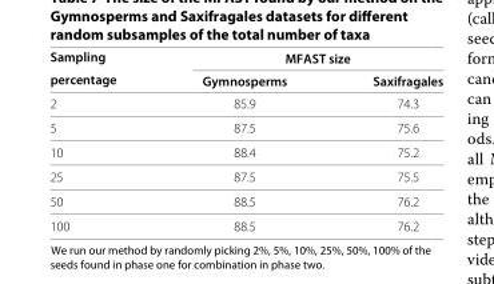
<table><thead><tr><td rowspan="2">Sampling percentage</td><td colspan="2">MFAST size</td></tr><tr><td>Gymnosperms</td><td>Saxifragales</td></tr></thead><tbody><tr><td>2</td><td>85.9</td><td>74.3</td></tr><tr><td>5</td><td>87.5</td><td>75.6</td></tr><tr><td>10</td><td>88.4</td><td>75.2</td></tr><tr><td>25</td><td>87.5</td><td>75.5</td></tr><tr><td>50</td><td>88.5</td><td>76.2</td></tr><tr><td>100</td><td>88.5</td><td>76.2</td></tr></tbody></table>